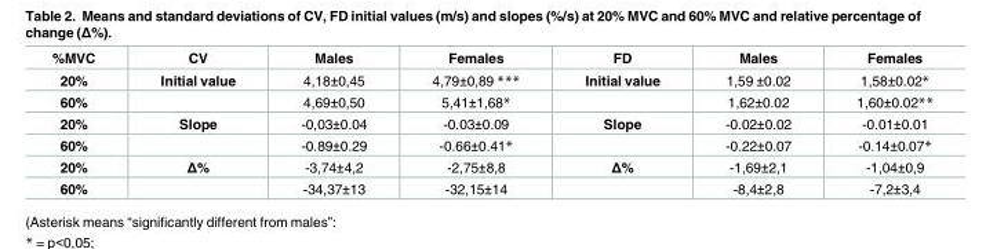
<table><thead><tr><td>%MVC</td><td>CV</td><td>Males</td><td>Females</td><td>FD</td><td>Males</td><td>Females</td></tr></thead><tbody><tr><td>20%</td><td>Initial value</td><td>4,18±0,45</td><td>4,79±0,89 ***</td><td>Initial value</td><td>1,59 ±0.02</td><td>1,58±0.02*</td></tr><tr><td>60%</td><td></td><td>4,69±0,50</td><td>5,41±1,68*</td><td></td><td>1,62±0.02</td><td>1,60±0.02**</td></tr><tr><td>20%</td><td>Slope</td><td>-0,03±0.04</td><td>-0.03±0.09</td><td>Slope</td><td>-0.02±0.02</td><td>-0.01±0.01</td></tr><tr><td>60%</td><td></td><td>-0.89±0.29</td><td>-0.66±0.41*</td><td></td><td>-0.22±0.07</td><td>-0.14±0.07*</td></tr><tr><td>20%</td><td>Δ%</td><td>-3,74±4,2</td><td>-2,75±8,8</td><td>Δ%</td><td>-1,69±2,1</td><td>-1,04±0,9</td></tr><tr><td>60%</td><td></td><td>-34,37±13</td><td>-32,15±14</td><td></td><td>-8,4±2,8</td><td>-7,2±3,4</td></tr></tbody></table>